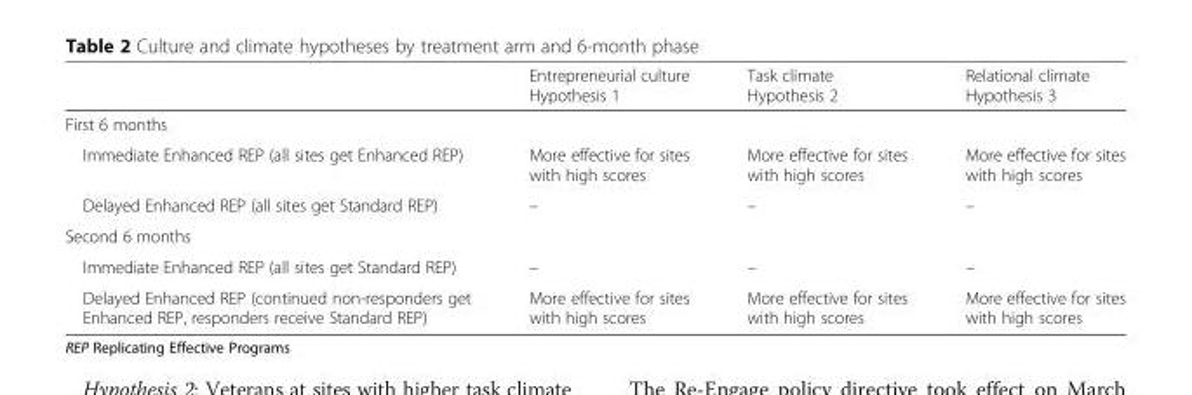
<table><thead><tr><td></td><td>Entrepreneurial culture Hypothesis 1</td><td>Task climate Hypothesis 2</td><td>Relational climate Hypothesis 3</td></tr></thead><tbody><tr><td colspan="4">First 6 months</td></tr><tr><td>Immediate Enhanced REP (all sites get Enhanced REP)</td><td>More effective for sites with high scores</td><td>More effective for sites with high scores</td><td>More effective for sites with high scores</td></tr><tr><td>Delayed Enhanced REP (all sites get Standard REP)</td><td>–</td><td>–</td><td>–</td></tr><tr><td colspan="4">Second 6 months</td></tr><tr><td>Immediate Enhanced REP (all sites get Standard REP)</td><td>–</td><td>–</td><td>–</td></tr><tr><td>Delayed Enhanced REP (continued non-responders get Enhanced REP, responders receive Standard REP)</td><td>More effective for sites with high scores</td><td>More effective for sites with high scores</td><td>More effective for sites with high scores</td></tr></tbody></table>